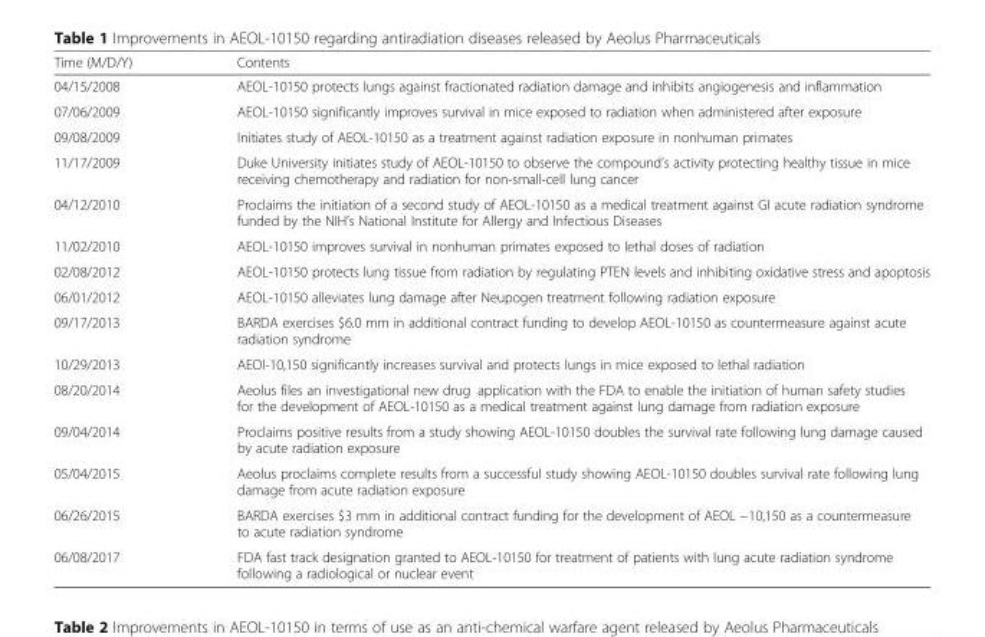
<table><thead><tr><td>Time (M/D/Y)</td><td>Contents</td></tr></thead><tbody><tr><td>04/15/2008</td><td>AEOL-10150 protects lungs against fractionated radiation damage and inhibits angiogenesis and inflammation</td></tr><tr><td>07/06/2009</td><td>AEOL-10150 significantly improves survival in mice exposed to radiation when administered after exposure</td></tr><tr><td>09/08/2009</td><td>Initiates study of AEOL-10150 as a treatment against radiation exposure in nonhuman primates</td></tr><tr><td>11/17/2009</td><td>Duke University initiates study of AEOL-10150 to observe the compound’s activity protecting healthy tissue in mice receiving chemotherapy and radiation for non-small-cell lung cancer</td></tr><tr><td>04/12/2010</td><td>Proclaims the initiation of a second study of AEOL-10150 as a medical treatment against GI acute radiation syndrome funded by the NIH’s National Institute for Allergy and Infectious Diseases</td></tr><tr><td>11/02/2010</td><td>AEOL-10150 improves survival in nonhuman primates exposed to lethal doses of radiation</td></tr><tr><td>02/08/2012</td><td>AEOL-10150 protects lung tissue from radiation by regulating PTEN levels and inhibiting oxidative stress and apoptosis</td></tr><tr><td>06/01/2012</td><td>AEOL-10150 alleviates lung damage after Neupogen treatment following radiation exposure</td></tr><tr><td>09/17/2013</td><td>BARDA exercises $6.0 mm in additional contract funding to develop AEOL-10150 as countermeasure against acute radiation syndrome</td></tr><tr><td>10/29/2013</td><td>AEOl-10,150 significantly increases survival and protects lungs in mice exposed to lethal radiation</td></tr><tr><td>08/20/2014</td><td>Aeolus files an investigational new drug application with the FDA to enable the initiation of human safety studies for the development of AEOL-10150 as a medical treatment against lung damage from radiation exposure</td></tr><tr><td>09/04/2014</td><td>Proclaims positive results from a study showing AEOL-10150 doubles the survival rate following lung damage caused by acute radiation exposure</td></tr><tr><td>05/04/2015</td><td>Aeolus proclaims complete results from a successful study showing AEOL-10150 doubles survival rate following lung damage from acute radiation exposure</td></tr><tr><td>06/26/2015</td><td>BARDA exercises $3 mm in additional contract funding for the development of AEOL −10,150 as a countermeasure to acute radiation syndrome</td></tr><tr><td>06/08/2017</td><td>FDA fast track designation granted to AEOL-10150 for treatment of patients with lung acute radiation syndrome following a radiological or nuclear event</td></tr></tbody></table>